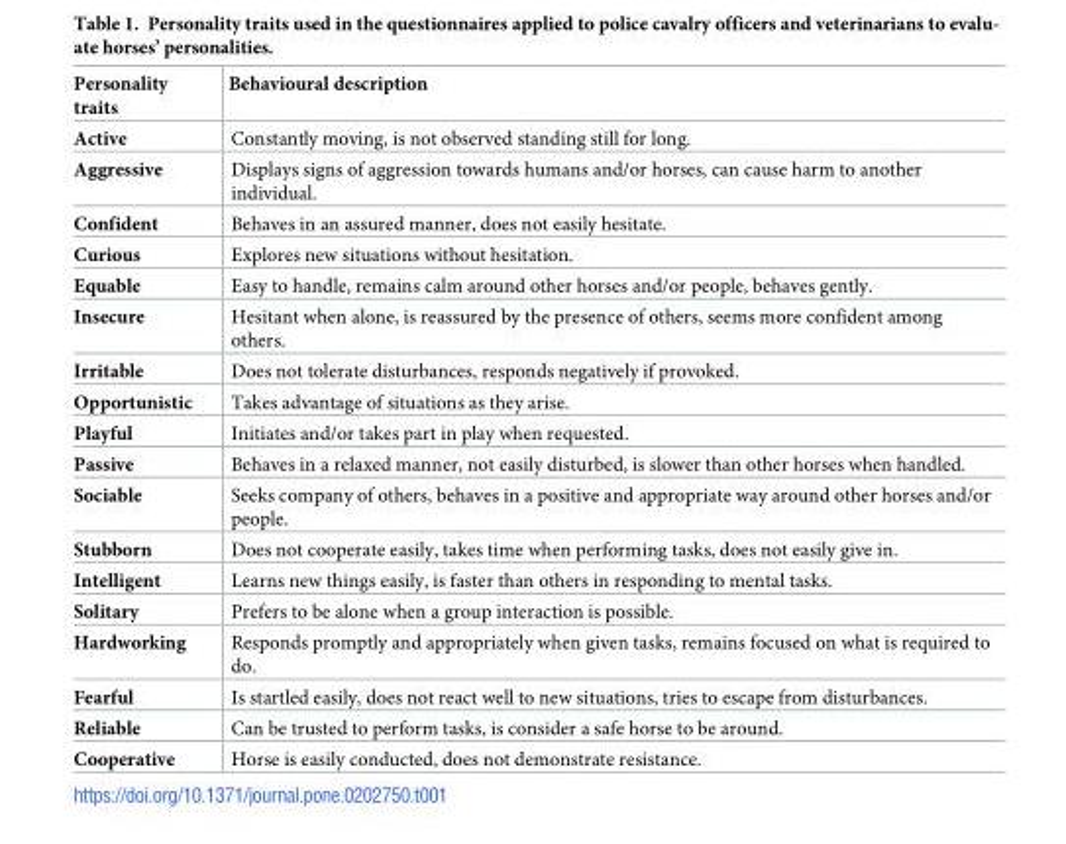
<table><thead><tr><td>Personality traits</td><td>Behavioural description</td></tr></thead><tbody><tr><td>Active</td><td>Constantly moving, is not observed standing still for long.</td></tr><tr><td>Aggressive</td><td>Displays signs of aggression towards humans and/or horses, can cause harm to another individual.</td></tr><tr><td>Confident</td><td>Behaves in an assured manner, does not easily hesitate.</td></tr><tr><td>Curious</td><td>Explores new situations without hesitation.</td></tr><tr><td>Equable</td><td>Easy to handle, remains calm around other horses and/or people, behaves gently.</td></tr><tr><td>Insecure</td><td>Hesitant when alone, is reassured by the presence of others, seems more confident among others.</td></tr><tr><td>Irritable</td><td>Does not tolerate disturbances, responds negatively if provoked.</td></tr><tr><td>Opportunistic</td><td>Takes advantage of situations as they arise.</td></tr><tr><td>Playful</td><td>Initiates and/or takes part in play when requested.</td></tr><tr><td>Passive</td><td>Behaves in a relaxed manner, not easily disturbed, is slower than other horses when handled.</td></tr><tr><td>Sociable</td><td>Seeks company of others, behaves in a positive and appropriate way around other horses and/or people.</td></tr><tr><td>Stubborn</td><td>Does not cooperate easily, takes time when performing tasks, does not easily give in.</td></tr><tr><td>Intelligent</td><td>Learns new things easily, is faster than others in responding to mental tasks.</td></tr><tr><td>Solitary</td><td>Prefers to be alone when a group interaction is possible.</td></tr><tr><td>Hardworking</td><td>Responds promptly and appropriately when given tasks, remains focused on what is required to do.</td></tr><tr><td>Fearful</td><td>Is startled easily, does not react well to new situations, tries to escape from disturbances.</td></tr><tr><td>Reliable</td><td>Can be trusted to perform tasks, is consider a safe horse to be around.</td></tr><tr><td>Cooperative</td><td>Horse is easily conducted, does not demonstrate resistance.</td></tr></tbody></table>